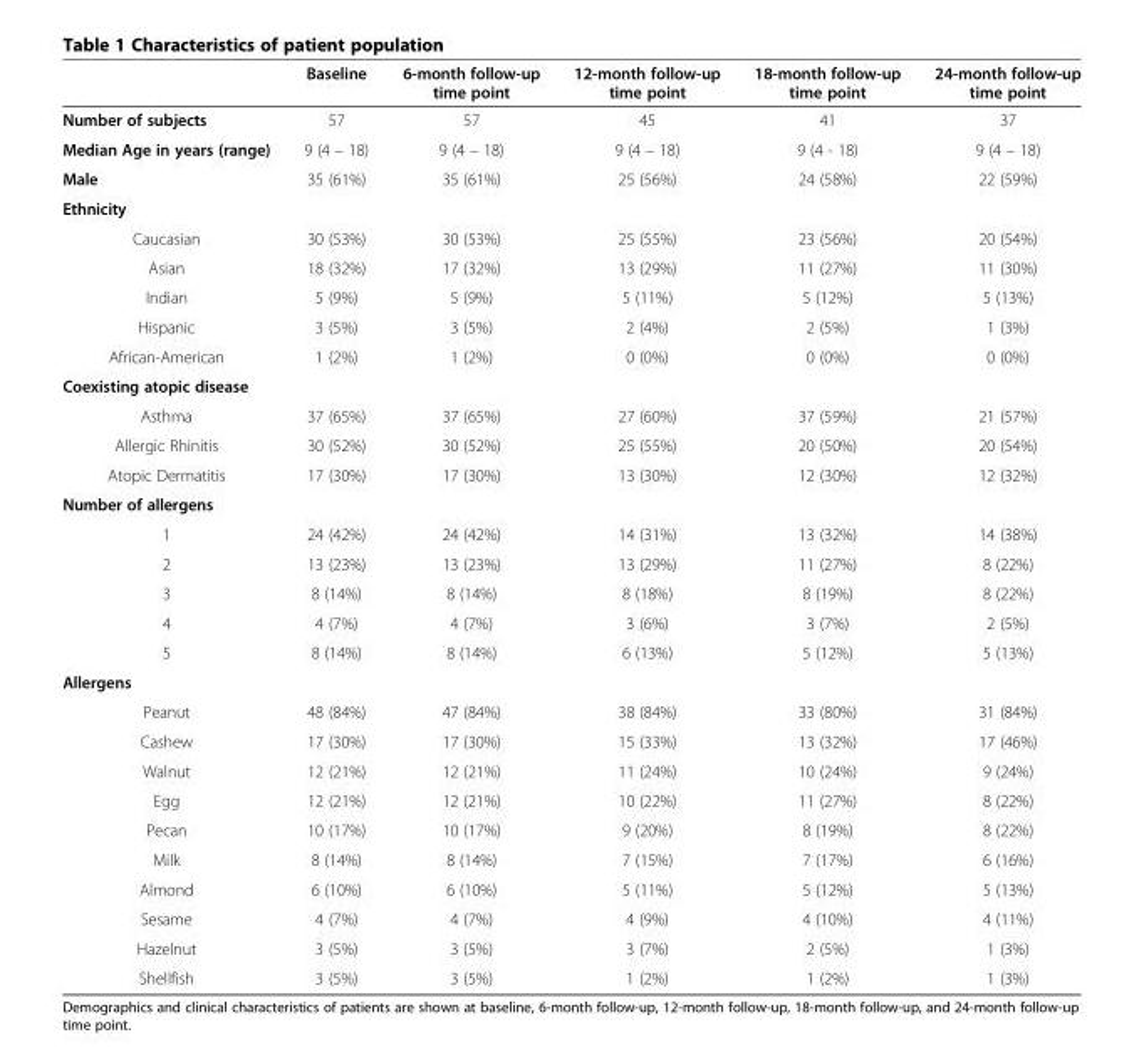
<table><thead><tr><td></td><td>Baseline</td><td>6-month follow-up time point</td><td>12-month follow-up time point</td><td>18-month follow-up time point</td><td>24-month follow-up time point</td></tr></thead><tbody><tr><td>Number of subjects</td><td>57</td><td>57</td><td>45</td><td>41</td><td>37</td></tr><tr><td>Median Age in years (range)</td><td>9 (4 – 18)</td><td>9 (4 – 18)</td><td>9 (4 – 18)</td><td>9 (4 - 18)</td><td>9 (4 – 18)</td></tr><tr><td>Male</td><td>35 (61%)</td><td>35 (61%)</td><td>25 (56%)</td><td>24 (58%)</td><td>22 (59%)</td></tr><tr><td colspan="6">Ethnicity</td></tr><tr><td>Caucasian</td><td>30 (53%)</td><td>30 (53%)</td><td>25 (55%)</td><td>23 (56%)</td><td>20 (54%)</td></tr><tr><td>Asian</td><td>18 (32%)</td><td>17 (32%)</td><td>13 (29%)</td><td>11 (27%)</td><td>11 (30%)</td></tr><tr><td>Indian</td><td>5 (9%)</td><td>5 (9%)</td><td>5 (11%)</td><td>5 (12%)</td><td>5 (13%)</td></tr><tr><td>Hispanic</td><td>3 (5%)</td><td>3 (5%)</td><td>2 (4%)</td><td>2 (5%)</td><td>1 (3%)</td></tr><tr><td>African-American</td><td>1 (2%)</td><td>1 (2%)</td><td>0 (0%)</td><td>0 (0%)</td><td>0 (0%)</td></tr><tr><td colspan="6">Coexisting atopic disease</td></tr><tr><td>Asthma</td><td>37 (65%)</td><td>37 (65%)</td><td>27 (60%)</td><td>37 (59%)</td><td>21 (57%)</td></tr><tr><td>Allergic Rhinitis</td><td>30 (52%)</td><td>30 (52%)</td><td>25 (55%)</td><td>20 (50%)</td><td>20 (54%)</td></tr><tr><td>Atopic Dermatitis</td><td>17 (30%)</td><td>17 (30%)</td><td>13 (30%)</td><td>12 (30%)</td><td>12 (32%)</td></tr><tr><td colspan="6">Number of allergens</td></tr><tr><td>1</td><td>24 (42%)</td><td>24 (42%)</td><td>14 (31%)</td><td>13 (32%)</td><td>14 (38%)</td></tr><tr><td>2</td><td>13 (23%)</td><td>13 (23%)</td><td>13 (29%)</td><td>11 (27%)</td><td>8 (22%)</td></tr><tr><td>3</td><td>8 (14%)</td><td>8 (14%)</td><td>8 (18%)</td><td>8 (19%)</td><td>8 (22%)</td></tr><tr><td>4</td><td>4 (7%)</td><td>4 (7%)</td><td>3 (6%)</td><td>3 (7%)</td><td>2 (5%)</td></tr><tr><td>5</td><td>8 (14%)</td><td>8 (14%)</td><td>6 (13%)</td><td>5 (12%)</td><td>5 (13%)</td></tr><tr><td colspan="6">Allergens</td></tr><tr><td>Peanut</td><td>48 (84%)</td><td>47 (84%)</td><td>38 (84%)</td><td>33 (80%)</td><td>31 (84%)</td></tr><tr><td>Cashew</td><td>17 (30%)</td><td>17 (30%)</td><td>15 (33%)</td><td>13 (32%)</td><td>17 (46%)</td></tr><tr><td>Walnut</td><td>12 (21%)</td><td>12 (21%)</td><td>11 (24%)</td><td>10 (24%)</td><td>9 (24%)</td></tr><tr><td>Egg</td><td>12 (21%)</td><td>12 (21%)</td><td>10 (22%)</td><td>11 (27%)</td><td>8 (22%)</td></tr><tr><td>Pecan</td><td>10 (17%)</td><td>10 (17%)</td><td>9 (20%)</td><td>8 (19%)</td><td>8 (22%)</td></tr><tr><td>Milk</td><td>8 (14%)</td><td>8 (14%)</td><td>7 (15%)</td><td>7 (17%)</td><td>6 (16%)</td></tr><tr><td>Almond</td><td>6 (10%)</td><td>6 (10%)</td><td>5 (11%)</td><td>5 (12%)</td><td>5 (13%)</td></tr><tr><td>Sesame</td><td>4 (7%)</td><td>4 (7%)</td><td>4 (9%)</td><td>4 (10%)</td><td>4 (11%)</td></tr><tr><td>Hazelnut</td><td>3 (5%)</td><td>3 (5%)</td><td>3 (7%)</td><td>2 (5%)</td><td>1 (3%)</td></tr><tr><td>Shellfish</td><td>3 (5%)</td><td>3 (5%)</td><td>1 (2%)</td><td>1 (2%)</td><td>1 (3%)</td></tr></tbody></table>